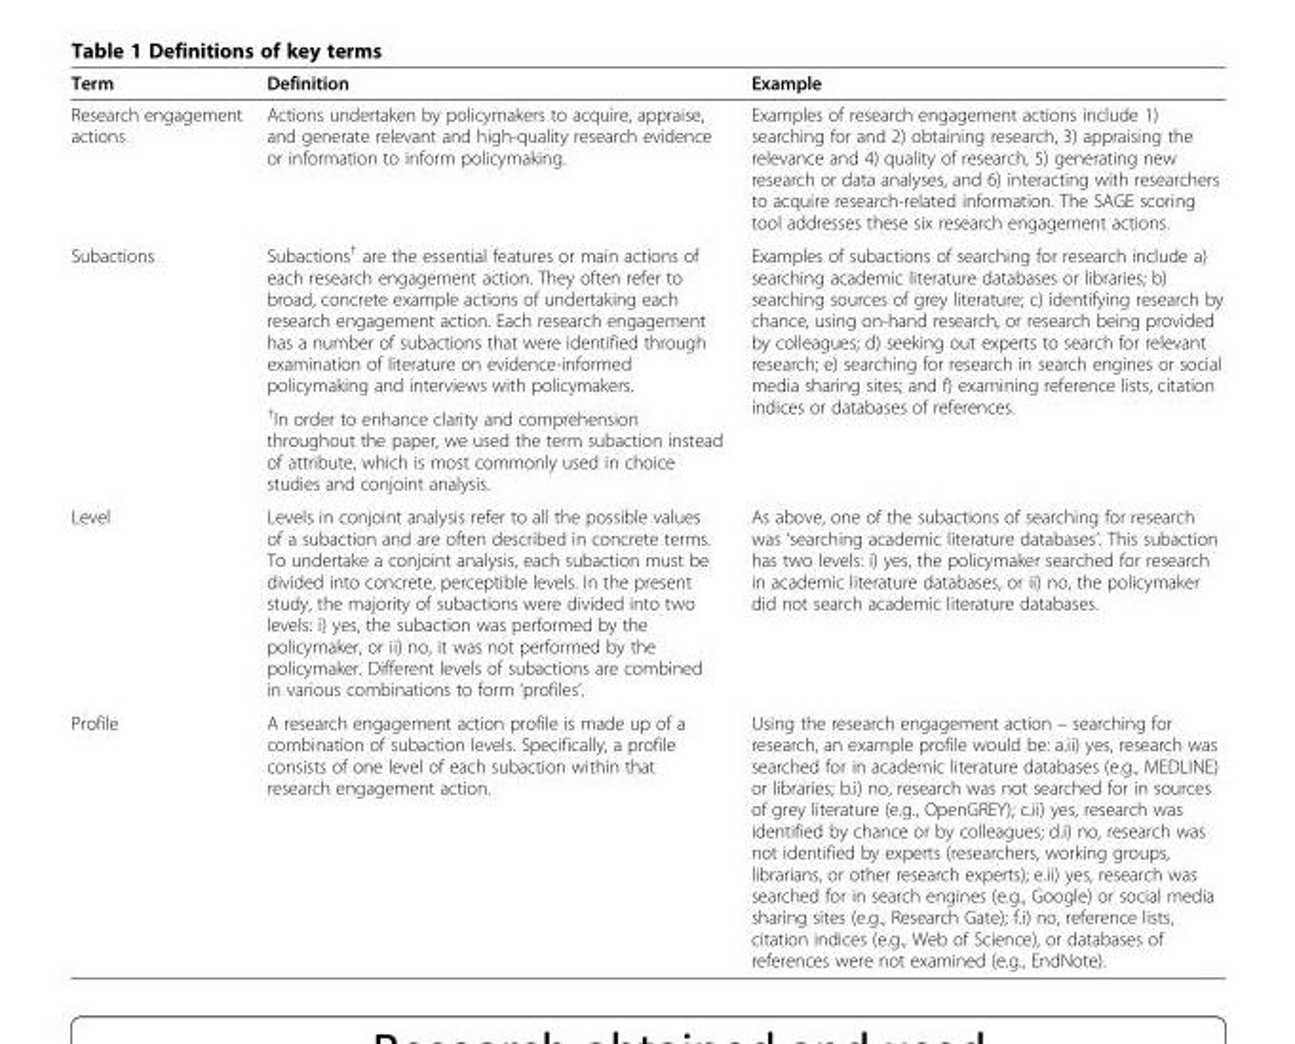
<table><thead><tr><td>Term</td><td>Definition</td><td>Example</td></tr></thead><tbody><tr><td>Research engagement actions</td><td>Actions undertaken by policymakers to acquire, appraise, and generate relevant and high-quality research evidence or information to inform policymaking.</td><td>Examples of research engagement actions include 1) searching for and 2) obtaining research, 3) appraising the relevance and 4) quality of research, 5) generating new research or data analyses, and 6) interacting with researchers to acquire research-related information. The SAGE scoring tool addresses these six research engagement actions.</td></tr><tr><td rowspan="2">Subactions</td><td>Subactions<sup>†</sup> are the essential features or main actions of each research engagement action. They often refer to broad, concrete example actions of undertaking each research engagement action. Each research engagement has a number of subactions that were identified through examination of literature on evidence-informed policymaking and interviews with policymakers.</td><td rowspan="2">Examples of subactions of searching for research include a) searching academic literature databases or libraries; b) searching sources of grey literature; c) identifying research by chance, using on-hand research, or research being provided by colleagues; d) seeking out experts to search for relevant research; e) searching for research in search engines or social media sharing sites; and f) examining reference lists, citation indices or databases of references.</td></tr><tr><td><sup>†</sup>In order to enhance clarity and comprehension throughout the paper, we used the term subaction instead of attribute, which is most commonly used in choice studies and conjoint analysis.</td></tr><tr><td>Level</td><td>Levels in conjoint analysis refer to all the possible values of a subaction and are often described in concrete terms. To undertake a conjoint analysis, each subaction must be divided into concrete, perceptible levels. In the present study, the majority of subactions were divided into two levels: i) yes, the subaction was performed by the policymaker, or ii) no, it was not performed by the policymaker. Different levels of subactions are combined in various combinations to form ‘profiles’.</td><td>As above, one of the subactions of searching for research was ‘searching academic literature databases’. This subaction has two levels: i) yes, the policymaker searched for research in academic literature databases, or ii) no, the policymaker did not search academic literature databases.</td></tr><tr><td>Profile</td><td>A research engagement action profile is made up of a combination of subaction levels. Specifically, a profile consists of one level of each subaction within that research engagement action.</td><td>Using the research engagement action – searching for research, an example profile would be: a.ii) yes, research was searched for in academic literature databases (e.g., MEDLINE) or libraries; b.i) no, research was not searched for in sources of grey literature (e.g., OpenGREY); c.ii) yes, research was identified by chance or by colleagues; d.i) no, research was not identified by experts (researchers, working groups, librarians, or other research experts); e.ii) yes, research was searched for in search engines (e.g., Google) or social media sharing sites (e.g., Research Gate); f.i) no, reference lists, citation indices (e.g., Web of Science), or databases of references were not examined (e.g., EndNote).</td></tr></tbody></table>